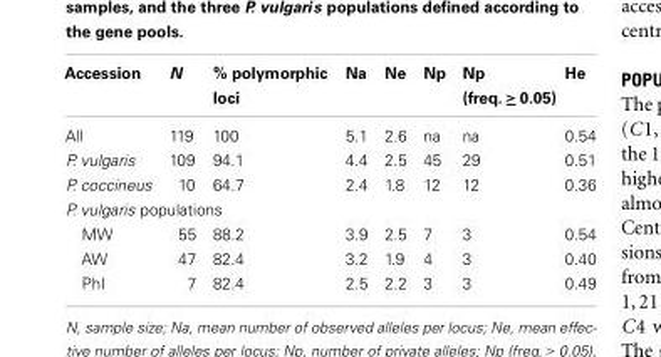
<table><thead><tr><td>Accession</td><td>N</td><td>% polymorphic loci</td><td>Na</td><td>Ne</td><td>Np</td><td>Np (freq. ≥ 0.05)</td><td>He</td></tr></thead><tbody><tr><td>All</td><td>119</td><td>100</td><td>5.1</td><td>2.6</td><td>na</td><td>na</td><td>0.54</td></tr><tr><td>P. vulgaris</td><td>109</td><td>94.1</td><td>4.4</td><td>2.5</td><td>45</td><td>29</td><td>0.51</td></tr><tr><td>P. coccineus</td><td>10</td><td>64.7</td><td>2.4</td><td>1.8</td><td>12</td><td>12</td><td>0.36</td></tr><tr><td colspan="8">P. vulgaris populations</td></tr><tr><td>MW</td><td>55</td><td>88.2</td><td>3.9</td><td>2.5</td><td>7</td><td>3</td><td>0.54</td></tr><tr><td>AW</td><td>47</td><td>82.4</td><td>3.2</td><td>1.9</td><td>4</td><td>3</td><td>0.40</td></tr><tr><td>PhI</td><td>7</td><td>82.4</td><td>2.5</td><td>2.2</td><td>3</td><td>3</td><td>0.49</td></tr></tbody></table>